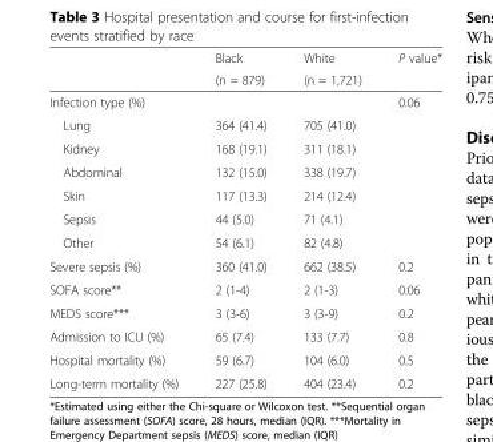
<table><thead><tr><td rowspan="2"></td><td rowspan="2">Black (n = 879)</td><td rowspan="2">White (n = 1,721)</td><td rowspan="2">P value*</td></tr><tr></tr></thead><tbody><tr><td>Infection type (%)</td><td></td><td></td><td>0.06</td></tr><tr><td>Lung</td><td>364 (41.4)</td><td>705 (41.0)</td><td></td></tr><tr><td>Kidney</td><td>168 (19.1)</td><td>311 (18.1)</td><td></td></tr><tr><td>Abdominal</td><td>132 (15.0)</td><td>338 (19.7)</td><td></td></tr><tr><td>Skin</td><td>117 (13.3)</td><td>214 (12.4)</td><td></td></tr><tr><td>Sepsis</td><td>44 (5.0)</td><td>71 (4.1)</td><td></td></tr><tr><td>Other</td><td>54 (6.1)</td><td>82 (4.8)</td><td></td></tr><tr><td>Severe sepsis (%)</td><td>360 (41.0)</td><td>662 (38.5)</td><td>0.2</td></tr><tr><td>SOFA score**</td><td>2 (1-4)</td><td>2 (1-3)</td><td>0.06</td></tr><tr><td>MEDS score***</td><td>3 (3-6)</td><td>3 (3-9)</td><td>0.2</td></tr><tr><td>Admission to ICU (%)</td><td>65 (7.4)</td><td>133 (7.7)</td><td>0.8</td></tr><tr><td>Hospital mortality (%)</td><td>59 (6.7)</td><td>104 (6.0)</td><td>0.5</td></tr><tr><td>Long-term mortality (%)</td><td>227 (25.8)</td><td>404 (23.4)</td><td>0.2</td></tr></tbody></table>